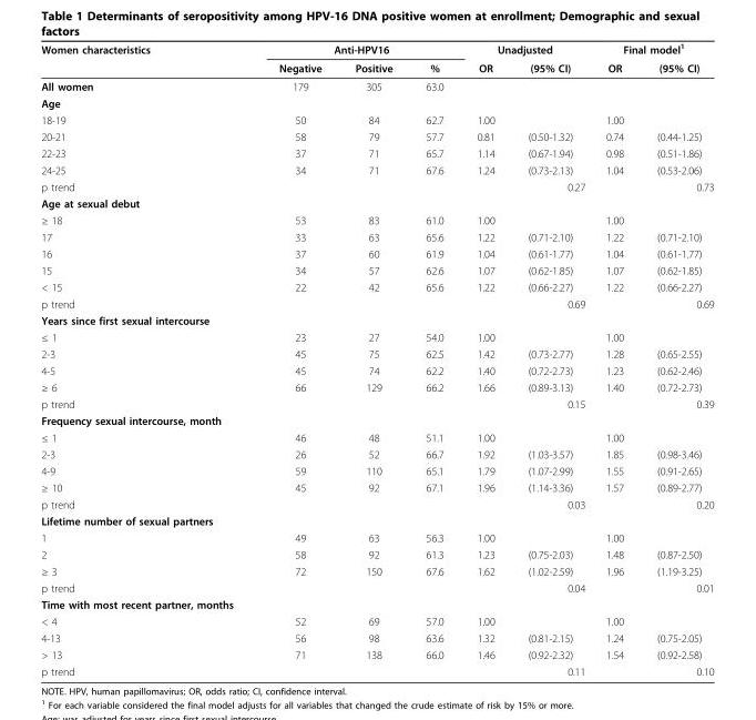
<table><thead><tr><td rowspan="2">Women characteristics</td><td colspan="3">Anti-HPV16</td><td colspan="2">Unadjusted</td><td colspan="2">Final model<sup>1</sup></td></tr><tr><td>Negative</td><td>Positive</td><td>%</td><td>OR</td><td>(95% CI)</td><td>OR</td><td>(95% CI)</td></tr></thead><tbody><tr><td>All women</td><td>179</td><td>305</td><td>63.0</td><td></td><td></td><td></td><td></td></tr><tr><td colspan="8">Age</td></tr><tr><td>18-19</td><td>50</td><td>84</td><td>62.7</td><td>1.00</td><td></td><td>1.00</td><td></td></tr><tr><td>20-21</td><td>58</td><td>79</td><td>57.7</td><td>0.81</td><td>(0.50-1.32)</td><td>0.74</td><td>(0.44-1.25)</td></tr><tr><td>22-23</td><td>37</td><td>71</td><td>65.7</td><td>1.14</td><td>(0.67-1.94)</td><td>0.98</td><td>(0.51-1.86)</td></tr><tr><td>24-25</td><td>34</td><td>71</td><td>67.6</td><td>1.24</td><td>(0.73-2.13)</td><td>1.04</td><td>(0.53-2.06)</td></tr><tr><td>p trend</td><td></td><td></td><td></td><td></td><td>0.27</td><td></td><td>0.73</td></tr><tr><td colspan="8">Age at sexual debut</td></tr><tr><td>≥ 18</td><td>53</td><td>83</td><td>61.0</td><td>1.00</td><td></td><td>1.00</td><td></td></tr><tr><td>17</td><td>33</td><td>63</td><td>65.6</td><td>1.22</td><td>(0.71-2.10)</td><td>1.22</td><td>(0.71-2.10)</td></tr><tr><td>16</td><td>37</td><td>60</td><td>61.9</td><td>1.04</td><td>(0.61-1.77)</td><td>1.04</td><td>(0.61-1.77)</td></tr><tr><td>15</td><td>34</td><td>57</td><td>62.6</td><td>1.07</td><td>(0.62-1.85)</td><td>1.07</td><td>(0.62-1.85)</td></tr><tr><td>&lt; 15</td><td>22</td><td>42</td><td>65.6</td><td>1.22</td><td>(0.66-2.27)</td><td>1.22</td><td>(0.66-2.27)</td></tr><tr><td>p trend</td><td></td><td></td><td></td><td></td><td>0.69</td><td></td><td>0.69</td></tr><tr><td colspan="8">Years since first sexual intercourse</td></tr><tr><td>≤ 1</td><td>23</td><td>27</td><td>54.0</td><td>1.00</td><td></td><td>1.00</td><td></td></tr><tr><td>2-3</td><td>45</td><td>75</td><td>62.5</td><td>1.42</td><td>(0.73-2.77)</td><td>1.28</td><td>(0.65-2.55)</td></tr><tr><td>4-5</td><td>45</td><td>74</td><td>62.2</td><td>1.40</td><td>(0.72-2.73)</td><td>1.23</td><td>(0.62-2.46)</td></tr><tr><td>≥ 6</td><td>66</td><td>129</td><td>66.2</td><td>1.66</td><td>(0.89-3.13)</td><td>1.40</td><td>(0.72-2.73)</td></tr><tr><td>p trend</td><td></td><td></td><td></td><td></td><td>0.15</td><td></td><td>0.39</td></tr><tr><td colspan="8">Frequency sexual intercourse, month</td></tr><tr><td>≤ 1</td><td>46</td><td>48</td><td>51.1</td><td>1.00</td><td></td><td>1.00</td><td></td></tr><tr><td>2-3</td><td>26</td><td>52</td><td>66.7</td><td>1.92</td><td>(1.03-3.57)</td><td>1.85</td><td>(0.98-3.46)</td></tr><tr><td>4-9</td><td>59</td><td>110</td><td>65.1</td><td>1.79</td><td>(1.07-2.99)</td><td>1.55</td><td>(0.91-2.65)</td></tr><tr><td>≥ 10</td><td>45</td><td>92</td><td>67.1</td><td>1.96</td><td>(1.14-3.36)</td><td>1.57</td><td>(0.89-2.77)</td></tr><tr><td>p trend</td><td></td><td></td><td></td><td></td><td>0.03</td><td></td><td>0.20</td></tr><tr><td colspan="8">Lifetime number of sexual partners</td></tr><tr><td>1</td><td>49</td><td>63</td><td>56.3</td><td>1.00</td><td></td><td>1.00</td><td></td></tr><tr><td>2</td><td>58</td><td>92</td><td>61.3</td><td>1.23</td><td>(0.75-2.03)</td><td>1.48</td><td>(0.87-2.50)</td></tr><tr><td>≥ 3</td><td>72</td><td>150</td><td>67.6</td><td>1.62</td><td>(1.02-2.59)</td><td>1.96</td><td>(1.19-3.25)</td></tr><tr><td>p trend</td><td></td><td></td><td></td><td></td><td>0.04</td><td></td><td>0.01</td></tr><tr><td colspan="8">Time with most recent partner, months</td></tr><tr><td>&lt; 4</td><td>52</td><td>69</td><td>57.0</td><td>1.00</td><td></td><td>1.00</td><td></td></tr><tr><td>4-13</td><td>56</td><td>98</td><td>63.6</td><td>1.32</td><td>(0.81-2.15)</td><td>1.24</td><td>(0.75-2.05)</td></tr><tr><td>&gt; 13</td><td>71</td><td>138</td><td>66.0</td><td>1.46</td><td>(0.92-2.32)</td><td>1.54</td><td>(0.92-2.58)</td></tr><tr><td>p trend</td><td></td><td></td><td></td><td></td><td>0.11</td><td></td><td>0.10</td></tr></tbody></table>